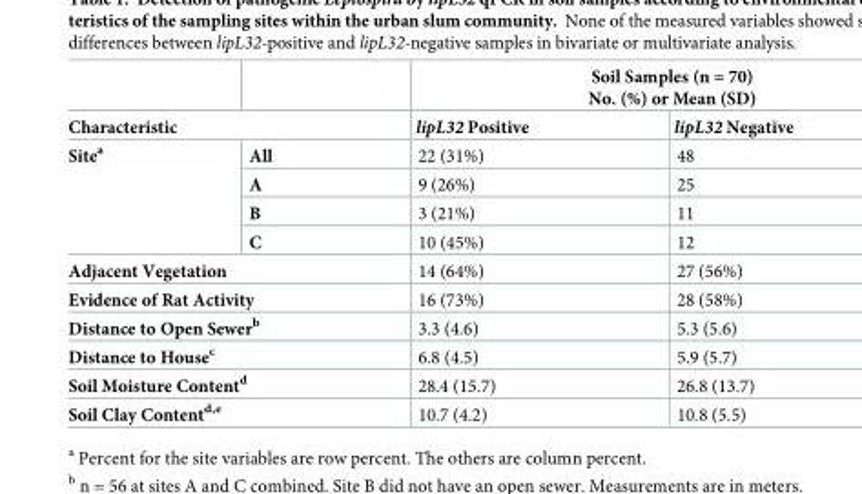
<table><thead><tr><td></td><td></td><td colspan="2">Soil Samples (n = 70) No. (%) or Mean (SD)</td></tr><tr><td colspan="2">Characteristic</td><td>lipL32 Positive</td><td>lipL32 Negative</td></tr></thead><tbody><tr><td rowspan="4">Site<sup>a</sup></td><td>All</td><td>22 (31%)</td><td>48</td></tr><tr><td>A</td><td>9 (26%)</td><td>25</td></tr><tr><td>B</td><td>3 (21%)</td><td>11</td></tr><tr><td>C</td><td>10 (45%)</td><td>12</td></tr><tr><td colspan="2">Adjacent Vegetation</td><td>14 (64%)</td><td>27 (56%)</td></tr><tr><td colspan="2">Evidence of Rat Activity</td><td>16 (73%)</td><td>28 (58%)</td></tr><tr><td colspan="2">Distance to Open Sewer<sup>b</sup></td><td>3.3 (4.6)</td><td>5.3 (5.6)</td></tr><tr><td colspan="2">Distance to House<sup>c</sup></td><td>6.8 (4.5)</td><td>5.9 (5.7)</td></tr><tr><td colspan="2">Soil Moisture Content<sup>d</sup></td><td>28.4 (15.7)</td><td>26.8 (13.7)</td></tr><tr><td colspan="2">Soil Clay Content<sup>d,e</sup></td><td>10.7 (4.2)</td><td>10.8 (5.5)</td></tr></tbody></table>